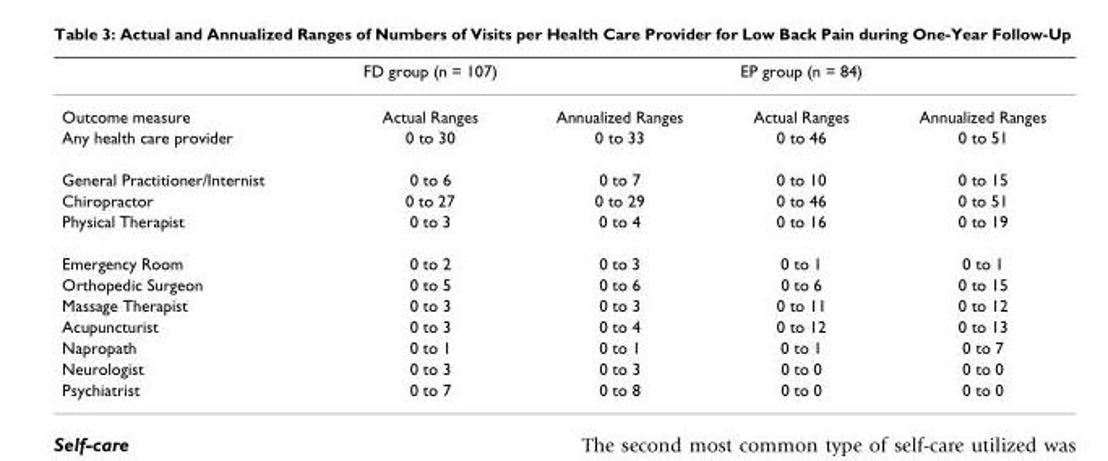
<table><thead><tr><td></td><td>FD group (n = 107)</td><td></td><td>EP group (n = 84)</td><td></td></tr></thead><tbody><tr><td>Outcome measure</td><td>Actual Ranges</td><td>Annualized Ranges</td><td>Actual Ranges</td><td>Annualized Ranges</td></tr><tr><td>Any health care provider</td><td>0 to 30</td><td>0 to 33</td><td>0 to 46</td><td>0 to 51</td></tr><tr><td>General Practitioner/Internist</td><td>0 to 6</td><td>0 to 7</td><td>0 to 10</td><td>0 to 15</td></tr><tr><td>Chiropractor</td><td>0 to 27</td><td>0 to 29</td><td>0 to 46</td><td>0 to 51</td></tr><tr><td>Physical Therapist</td><td>0 to 3</td><td>0 to 4</td><td>0 to 16</td><td>0 to 19</td></tr><tr><td>Emergency Room</td><td>0 to 2</td><td>0 to 3</td><td>0 to 1</td><td>0 to 1</td></tr><tr><td>Orthopedic Surgeon</td><td>0 to 5</td><td>0 to 6</td><td>0 to 6</td><td>0 to 15</td></tr><tr><td>Massage Therapist</td><td>0 to 3</td><td>0 to 3</td><td>0 to 11</td><td>0 to 12</td></tr><tr><td>Acupuncturist</td><td>0 to 3</td><td>0 to 4</td><td>0 to 12</td><td>0 to 13</td></tr><tr><td>Napropath</td><td>0 to 1</td><td>0 to 1</td><td>0 to 1</td><td>0 to 7</td></tr><tr><td>Neurologist</td><td>0 to 3</td><td>0 to 3</td><td>0 to 0</td><td>0 to 0</td></tr><tr><td>Psychiatrist</td><td>0 to 7</td><td>0 to 8</td><td>0 to 0</td><td>0 to 0</td></tr></tbody></table>